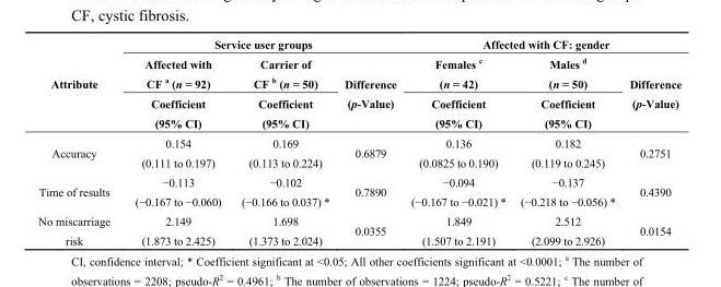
<table><thead><tr><td rowspan="3">Attribute</td><td colspan="3">Service user groups</td><td colspan="3">Affected with CF: gender</td></tr><tr><td rowspan="2">Affected with CF <sup>a</sup> (n = 92) Coefficient (95% CI)</td><td rowspan="2">Carrier of CF <sup>b</sup> (n = 50) Coefficient (95% CI)</td><td rowspan="2">Difference (p-Value)</td><td rowspan="2">Females <sup>c</sup> (n = 42) Coefficient (95% CI)</td><td rowspan="2">Males <sup>d</sup> (n = 50) Coefficient (95% CI)</td><td rowspan="2">Difference (p-Value)</td></tr><tr></tr></thead><tbody><tr><td>Accuracy</td><td>0.154 (0.111 to 0.197)</td><td>0.169 (0.113 to 0.224)</td><td>0.6879</td><td>0.136 (0.0825 to 0.190)</td><td>0.182 (0.119 to 0.245)</td><td>0.2751</td></tr><tr><td>Time of results</td><td>−0.113 (−0.167 to −0.060)</td><td>−0.102 (−0.166 to 0.037) *</td><td>0.7890</td><td>−0.094 (−0.167 to −0.021) *</td><td>−0.137 (−0.218 to −0.056) *</td><td>0.4390</td></tr><tr><td>No miscarriage risk</td><td>2.149 (1.873 to 2.425)</td><td>1.698 (1.373 to 2.024)</td><td>0.0355</td><td>1.849 (1.507 to 2.191)</td><td>2.512 (2.099 to 2.926)</td><td>0.0154</td></tr></tbody></table>